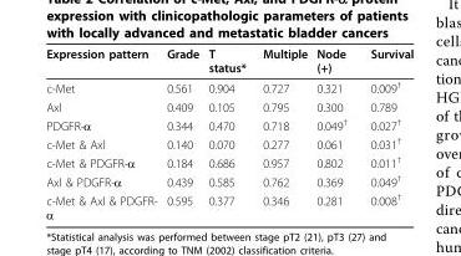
<table><thead><tr><td>Expression pattern</td><td>Grade</td><td>T status*</td><td>Multiple</td><td>Node (+)</td><td>Survival</td></tr></thead><tbody><tr><td>c-Met</td><td>0.561</td><td>0.904</td><td>0.727</td><td>0.321</td><td>0.009<sup>†</sup></td></tr><tr><td>Axl</td><td>0.409</td><td>0.105</td><td>0.795</td><td>0.300</td><td>0.789</td></tr><tr><td>PDGFR-α</td><td>0.344</td><td>0.470</td><td>0.718</td><td>0.049<sup>†</sup></td><td>0.027<sup>†</sup></td></tr><tr><td>c-Met &amp; Axl</td><td>0.140</td><td>0.070</td><td>0.277</td><td>0.061</td><td>0.031<sup>†</sup></td></tr><tr><td>c-Met &amp; PDGFR-α</td><td>0.184</td><td>0.686</td><td>0.957</td><td>0.802</td><td>0.011<sup>†</sup></td></tr><tr><td>Axl &amp; PDGFR-α</td><td>0.439</td><td>0.585</td><td>0.762</td><td>0.369</td><td>0.049<sup>†</sup></td></tr><tr><td>c-Met &amp; Axl &amp; PDGFR-</td><td>0.595</td><td>0.377</td><td>0.346</td><td>0.281</td><td>0.008<sup>†</sup></td></tr></tbody></table>